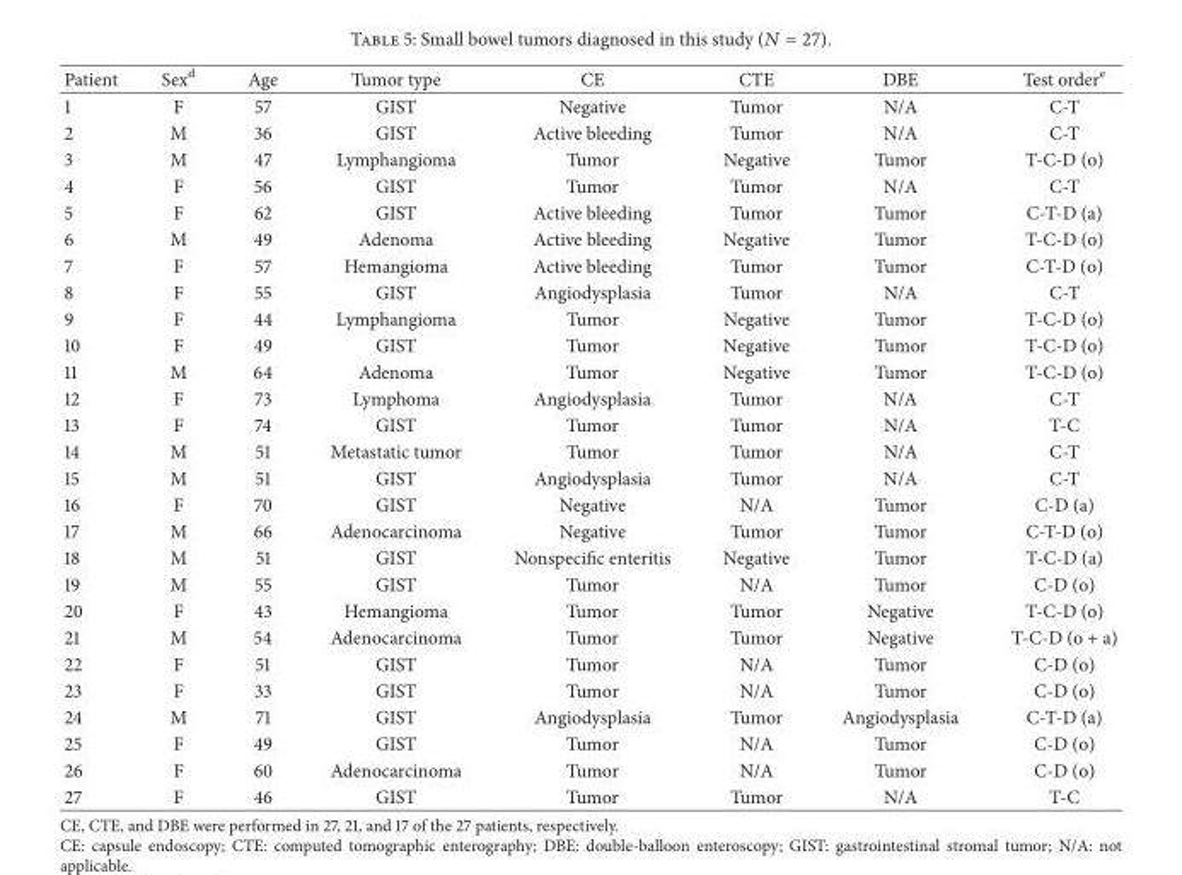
<table><thead><tr><td>Patient</td><td>Sex<sup>d</sup></td><td>Age</td><td>Tumor type</td><td>CE</td><td>CTE</td><td>DBE</td><td>Test order<sup>e</sup></td></tr></thead><tbody><tr><td>1</td><td>F</td><td>57</td><td>GIST</td><td>Negative</td><td>Tumor</td><td>N/A</td><td>C-T</td></tr><tr><td>2</td><td>M</td><td>36</td><td>GIST</td><td>Active bleeding</td><td>Tumor</td><td>N/A</td><td>C-T</td></tr><tr><td>3</td><td>M</td><td>47</td><td>Lymphangioma</td><td>Tumor</td><td>Negative</td><td>Tumor</td><td>T-C-D (o)</td></tr><tr><td>4</td><td>F</td><td>56</td><td>GIST</td><td>Tumor</td><td>Tumor</td><td>N/A</td><td>C-T</td></tr><tr><td>5</td><td>F</td><td>62</td><td>GIST</td><td>Active bleeding</td><td>Tumor</td><td>Tumor</td><td>C-T-D (a)</td></tr><tr><td>6</td><td>M</td><td>49</td><td>Adenoma</td><td>Active bleeding</td><td>Negative</td><td>Tumor</td><td>T-C-D (o)</td></tr><tr><td>7</td><td>F</td><td>57</td><td>Hemangioma</td><td>Active bleeding</td><td>Tumor</td><td>Tumor</td><td>C-T-D (o)</td></tr><tr><td>8</td><td>F</td><td>55</td><td>GIST</td><td>Angiodysplasia</td><td>Tumor</td><td>N/A</td><td>C-T</td></tr><tr><td>9</td><td>F</td><td>44</td><td>Lymphangioma</td><td>Tumor</td><td>Negative</td><td>Tumor</td><td>T-C-D (o)</td></tr><tr><td>10</td><td>F</td><td>49</td><td>GIST</td><td>Tumor</td><td>Negative</td><td>Tumor</td><td>T-C-D (o)</td></tr><tr><td>11</td><td>M</td><td>64</td><td>Adenoma</td><td>Tumor</td><td>Negative</td><td>Tumor</td><td>T-C-D (o)</td></tr><tr><td>12</td><td>F</td><td>73</td><td>Lymphoma</td><td>Angiodysplasia</td><td>Tumor</td><td>N/A</td><td>C-T</td></tr><tr><td>13</td><td>F</td><td>74</td><td>GIST</td><td>Tumor</td><td>Tumor</td><td>N/A</td><td>T-C</td></tr><tr><td>14</td><td>M</td><td>51</td><td>Metastatic tumor</td><td>Tumor</td><td>Tumor</td><td>N/A</td><td>C-T</td></tr><tr><td>15</td><td>M</td><td>51</td><td>GIST</td><td>Angiodysplasia</td><td>Tumor</td><td>N/A</td><td>C-T</td></tr><tr><td>16</td><td>F</td><td>70</td><td>GIST</td><td>Negative</td><td>N/A</td><td>Tumor</td><td>C-D (a)</td></tr><tr><td>17</td><td>M</td><td>66</td><td>Adenocarcinoma</td><td>Negative</td><td>Tumor</td><td>Tumor</td><td>C-T-D (o)</td></tr><tr><td>18</td><td>M</td><td>51</td><td>GIST</td><td>Nonspecific enteritis</td><td>Negative</td><td>Tumor</td><td>T-C-D (a)</td></tr><tr><td>19</td><td>M</td><td>55</td><td>GIST</td><td>Tumor</td><td>N/A</td><td>Tumor</td><td>C-D (o)</td></tr><tr><td>20</td><td>F</td><td>43</td><td>Hemangioma</td><td>Tumor</td><td>Tumor</td><td>Negative</td><td>T-C-D (o)</td></tr><tr><td>21</td><td>M</td><td>54</td><td>Adenocarcinoma</td><td>Tumor</td><td>Tumor</td><td>Negative</td><td>T-C-D (o + a)</td></tr><tr><td>22</td><td>F</td><td>51</td><td>GIST</td><td>Tumor</td><td>N/A</td><td>Tumor</td><td>C-D (o)</td></tr><tr><td>23</td><td>F</td><td>33</td><td>GIST</td><td>Tumor</td><td>N/A</td><td>Tumor</td><td>C-D (o)</td></tr><tr><td>24</td><td>M</td><td>71</td><td>GIST</td><td>Angiodysplasia</td><td>Tumor</td><td>Angiodysplasia</td><td>C-T-D (a)</td></tr><tr><td>25</td><td>F</td><td>49</td><td>GIST</td><td>Tumor</td><td>N/A</td><td>Tumor</td><td>C-D (o)</td></tr><tr><td>26</td><td>F</td><td>60</td><td>Adenocarcinoma</td><td>Tumor</td><td>N/A</td><td>Tumor</td><td>C-D (o)</td></tr><tr><td>27</td><td>F</td><td>46</td><td>GIST</td><td>Tumor</td><td>Tumor</td><td>N/A</td><td>T-C</td></tr></tbody></table>